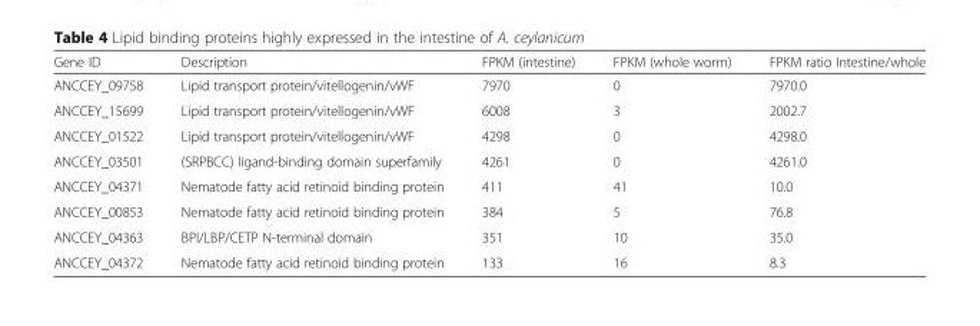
<table><thead><tr><td>Gene ID</td><td>Description</td><td>FPKM (intestine)</td><td>FPKM (whole worm)</td><td>FPKM ratio Intestine/whole</td></tr></thead><tbody><tr><td>ANCCEY_09758</td><td>Lipid transport protein/vitellogenin/vWF</td><td>7970</td><td>0</td><td>7970.0</td></tr><tr><td>ANCCEY_15699</td><td>Lipid transport protein/vitellogenin/vWF</td><td>6008</td><td>3</td><td>2002.7</td></tr><tr><td>ANCCEY_01522</td><td>Lipid transport protein/vitellogenin/vWF</td><td>4298</td><td>0</td><td>4298.0</td></tr><tr><td>ANCCEY_03501</td><td>(SRPBCC) ligand-binding domain superfamily</td><td>4261</td><td>0</td><td>4261.0</td></tr><tr><td>ANCCEY_04371</td><td>Nematode fatty acid retinoid binding protein</td><td>411</td><td>41</td><td>10.0</td></tr><tr><td>ANCCEY_00853</td><td>Nematode fatty acid retinoid binding protein</td><td>384</td><td>5</td><td>76.8</td></tr><tr><td>ANCCEY_04363</td><td>BPI/LBP/CETP N-terminal domain</td><td>351</td><td>10</td><td>35.0</td></tr><tr><td>ANCCEY_04372</td><td>Nematode fatty acid retinoid binding protein</td><td>133</td><td>16</td><td>8.3</td></tr></tbody></table>